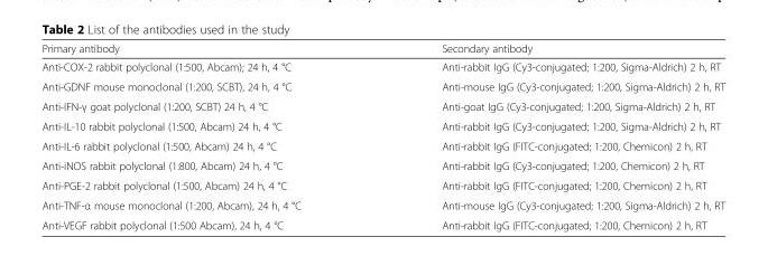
<table><thead><tr><td>Primary antibody</td><td>Secondary antibody</td></tr></thead><tbody><tr><td>Anti-COX-2 rabbit polyclonal (1:500, Abcam); 24 h, 4 °C</td><td>Anti-rabbit IgG (Cy3-conjugated; 1:200, Sigma-Aldrich) 2 h, RT</td></tr><tr><td>Anti-GDNF mouse monoclonal (1:200, SCBT), 24 h, 4 °C</td><td>Anti-mouse IgG (Cy3-conjugated; 1:200, Sigma-Aldrich) 2 h, RT</td></tr><tr><td>Anti-IFN-γ goat polyclonal (1:200, SCBT) 24 h, 4 °C</td><td>Anti-goat IgG (Cy3-conjugated; 1:200, Sigma-Aldrich) 2 h, RT</td></tr><tr><td>Anti-IL-10 rabbit polyclonal (1:500, Abcam) 24 h, 4 °C</td><td>Anti-rabbit IgG (Cy3-conjugated; 1:200, Sigma-Aldrich) 2 h, RT</td></tr><tr><td>Anti-IL-6 rabbit polyclonal (1:500, Abcam) 24 h, 4 °C</td><td>Anti-rabbit IgG (FITC-conjugated; 1:200, Chemicon) 2 h, RT</td></tr><tr><td>Anti-iNOS rabbit polyclonal (1:800, Abcam) 24 h, 4 °C</td><td>Anti-rabbit IgG (Cy3-conjugated; 1:200, Chemicon) 2 h, RT</td></tr><tr><td>Anti-PGE-2 rabbit polyclonal (1:500, Abcam) 24 h, 4 °C</td><td>Anti-rabbit IgG (FITC-conjugated; 1:200, Chemicon) 2 h, RT</td></tr><tr><td>Anti-TNF-α mouse monoclonal (1:200, Abcam), 24 h, 4 °C</td><td>Anti-mouse IgG (Cy3-conjugated; 1:200, Sigma-Aldrich) 2 h, RT</td></tr><tr><td>Anti-VEGF rabbit polyclonal (1:500 Abcam), 24 h, 4 °C</td><td>Anti-rabbit IgG (FITC-conjugated; 1:200, Chemicon) 2 h, RT</td></tr></tbody></table>